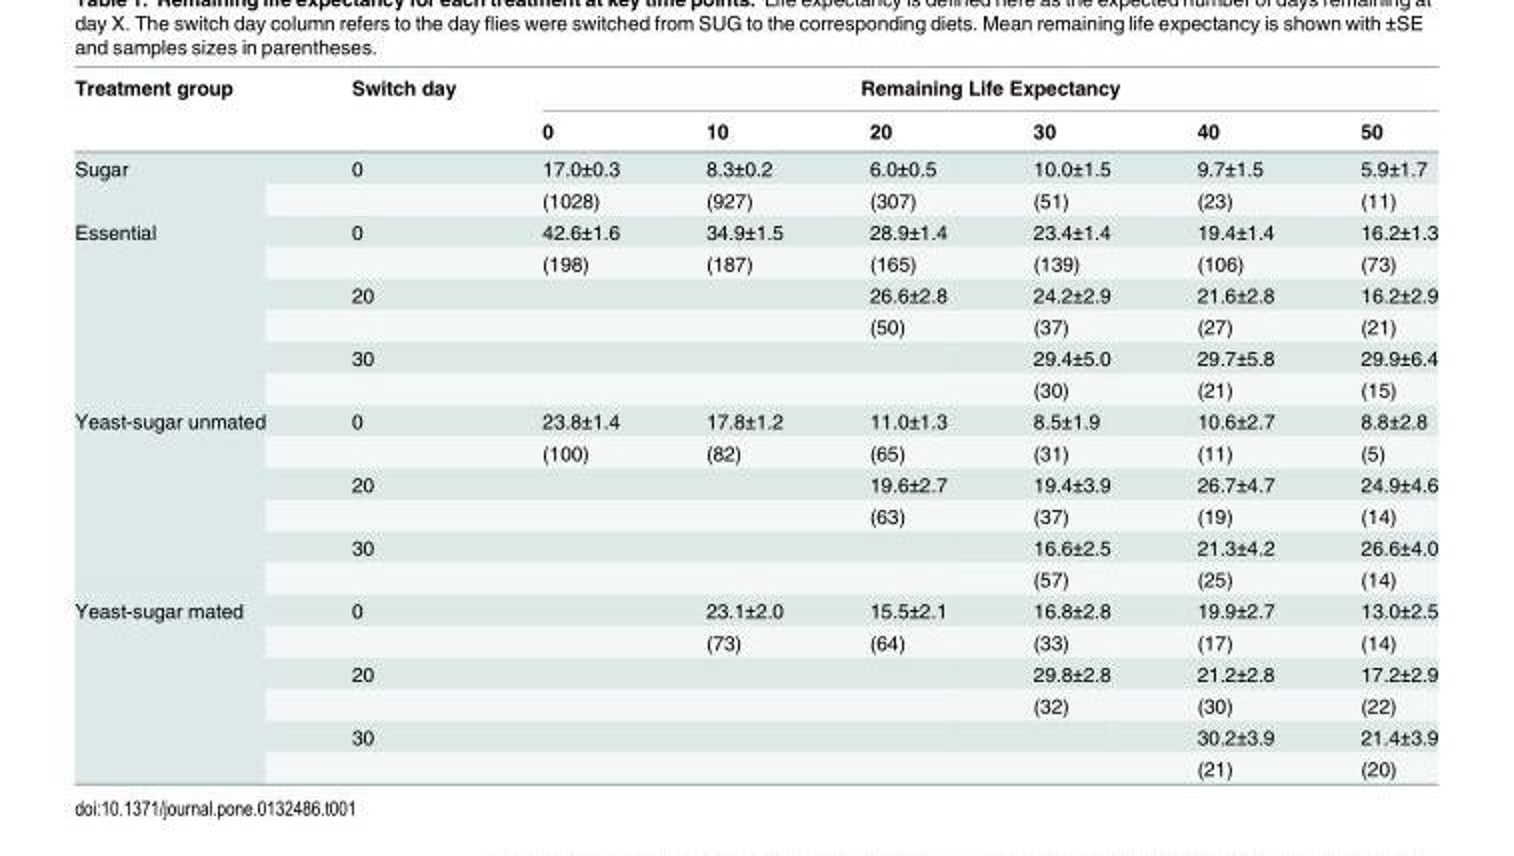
<table><thead><tr><td rowspan="2">Treatment group</td><td rowspan="2">Switch day</td><td colspan="6">Remaining Life Expectancy</td></tr><tr><td>0</td><td>10</td><td>20</td><td>30</td><td>40</td><td>50</td></tr></thead><tbody><tr><td rowspan="2">Sugar</td><td>0</td><td>17.0±0.3</td><td>8.3±0.2</td><td>6.0±0.5</td><td>10.0±1.5</td><td>9.7±1.5</td><td>5.9±1.7</td></tr><tr><td></td><td>(1028)</td><td>(927)</td><td>(307)</td><td>(51)</td><td>(23)</td><td>(11)</td></tr><tr><td rowspan="6">Essential</td><td>0</td><td>42.6±1.6</td><td>34.9±1.5</td><td>28.9±1.4</td><td>23.4±1.4</td><td>19.4±1.4</td><td>16.2±1.3</td></tr><tr><td></td><td>(198)</td><td>(187)</td><td>(165)</td><td>(139)</td><td>(106)</td><td>(73)</td></tr><tr><td>20</td><td></td><td></td><td>26.6±2.8</td><td>24.2±2.9</td><td>21.6±2.8</td><td>16.2±2.9</td></tr><tr><td></td><td></td><td></td><td>(50)</td><td>(37)</td><td>(27)</td><td>(21)</td></tr><tr><td>30</td><td></td><td></td><td></td><td>29.4±5.0</td><td>29.7±5.8</td><td>29.9±6.4</td></tr><tr><td></td><td></td><td></td><td></td><td>(30)</td><td>(21)</td><td>(15)</td></tr><tr><td rowspan="6">Yeast-sugar unmated</td><td>0</td><td>23.8±1.4</td><td>17.8±1.2</td><td>11.0±1.3</td><td>8.5±1.9</td><td>10.6±2.7</td><td>8.8±2.8</td></tr><tr><td></td><td>(100)</td><td>(82)</td><td>(65)</td><td>(31)</td><td>(11)</td><td>(5)</td></tr><tr><td>20</td><td></td><td></td><td>19.6±2.7</td><td>19.4±3.9</td><td>26.7±4.7</td><td>24.9±4.6</td></tr><tr><td></td><td></td><td></td><td>(63)</td><td>(37)</td><td>(19)</td><td>(14)</td></tr><tr><td>30</td><td></td><td></td><td></td><td>16.6±2.5</td><td>21.3±4.2</td><td>26.6±4.0</td></tr><tr><td></td><td></td><td></td><td></td><td>(57)</td><td>(25)</td><td>(14)</td></tr><tr><td rowspan="6">Yeast-sugar mated</td><td>0</td><td></td><td>23.1±2.0</td><td>15.5±2.1</td><td>16.8±2.8</td><td>19.9±2.7</td><td>13.0±2.5</td></tr><tr><td></td><td></td><td>(73)</td><td>(64)</td><td>(33)</td><td>(17)</td><td>(14)</td></tr><tr><td>20</td><td></td><td></td><td></td><td>29.8±2.8</td><td>21.2±2.8</td><td>17.2±2.9</td></tr><tr><td></td><td></td><td></td><td></td><td>(32)</td><td>(30)</td><td>(22)</td></tr><tr><td>30</td><td></td><td></td><td></td><td></td><td>30.2±3.9</td><td>21.4±3.9</td></tr><tr><td></td><td></td><td></td><td></td><td></td><td>(21)</td><td>(20)</td></tr></tbody></table>